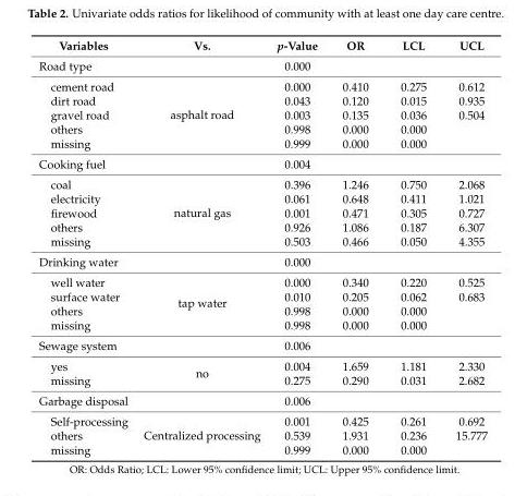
<table><thead><tr><td>Variables</td><td>Vs.</td><td>p-Value</td><td>OR</td><td>LCL</td><td>UCL</td></tr></thead><tbody><tr><td colspan="2">Road type</td><td>0.000</td><td></td><td></td><td></td></tr><tr><td>cement road</td><td rowspan="5">asphalt road</td><td>0.000</td><td>0.410</td><td>0.275</td><td>0.612</td></tr><tr><td>dirt road</td><td>0.043</td><td>0.120</td><td>0.015</td><td>0.935</td></tr><tr><td>gravel road</td><td>0.003</td><td>0.135</td><td>0.036</td><td>0.504</td></tr><tr><td>others</td><td>0.998</td><td>0.000</td><td>0.000</td><td></td></tr><tr><td>missing</td><td>0.999</td><td>0.000</td><td>0.000</td><td></td></tr><tr><td colspan="2">Cooking fuel</td><td>0.004</td><td></td><td></td><td></td></tr><tr><td>coal</td><td rowspan="5">natural gas</td><td>0.396</td><td>1.246</td><td>0.750</td><td>2.068</td></tr><tr><td>electricity</td><td>0.061</td><td>0.648</td><td>0.411</td><td>1.021</td></tr><tr><td>firewood</td><td>0.001</td><td>0.471</td><td>0.305</td><td>0.727</td></tr><tr><td>others</td><td>0.926</td><td>1.086</td><td>0.187</td><td>6.307</td></tr><tr><td>missing</td><td>0.503</td><td>0.466</td><td>0.050</td><td>4.355</td></tr><tr><td colspan="2">Drinking water</td><td>0.000</td><td></td><td></td><td></td></tr><tr><td>well water</td><td rowspan="4">tap water</td><td>0.000</td><td>0.340</td><td>0.220</td><td>0.525</td></tr><tr><td>surface water</td><td>0.010</td><td>0.205</td><td>0.062</td><td>0.683</td></tr><tr><td>others</td><td>0.998</td><td>0.000</td><td>0.000</td><td></td></tr><tr><td>missing</td><td>0.998</td><td>0.000</td><td>0.000</td><td></td></tr><tr><td colspan="2">Sewage system</td><td>0.006</td><td></td><td></td><td></td></tr><tr><td>yes</td><td rowspan="2">no</td><td>0.004</td><td>1.659</td><td>1.181</td><td>2.330</td></tr><tr><td>missing</td><td>0.275</td><td>0.290</td><td>0.031</td><td>2.682</td></tr><tr><td colspan="2">Garbage disposal</td><td>0.006</td><td></td><td></td><td></td></tr><tr><td>Self-processing</td><td rowspan="3">Centralized processing</td><td>0.001</td><td>0.425</td><td>0.261</td><td>0.692</td></tr><tr><td>others</td><td>0.539</td><td>1.931</td><td>0.236</td><td>15.777</td></tr><tr><td>missing</td><td>0.999</td><td>0.000</td><td>0.000</td><td></td></tr></tbody></table>